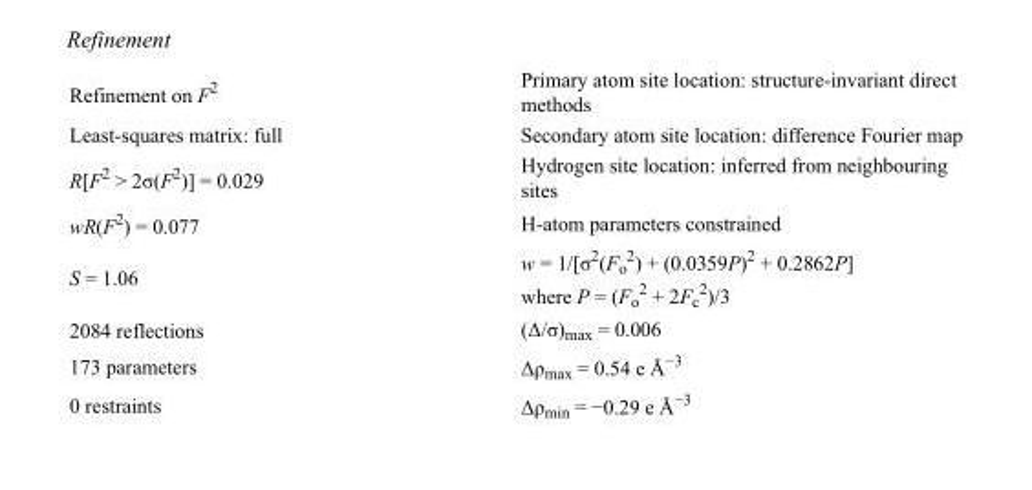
<table><tbody><tr><td>Refinement on F<sup>2</sup></td><td>Primary atom site location: structure-invariant direct methods</td></tr><tr><td>Least-squares matrix: full</td><td>Secondary atom site location: difference Fourier map</td></tr><tr><td>R[F<sup>2</sup> &gt; 2σ(F<sup>2</sup>)] = 0.029</td><td>Hydrogen site location: inferred from neighbouring sites</td></tr><tr><td>wR(F<sup>2</sup>) = 0.077</td><td>H-atom parameters constrained</td></tr><tr><td>S = 1.06</td><td>w = 1/[σ<sup>2</sup>(F<sub>o</sub> <sup>2</sup>) + (0.0359P)<sup>2</sup> + 0.2862P] where P = (F<sub>o</sub> <sup>2</sup> + 2F<sub>c</sub> <sup>2</sup>)/3</td></tr><tr><td>2084 reflections</td><td>(Δ/σ)<sub>max</sub> = 0.006</td></tr><tr><td>173 parameters</td><td>Δρ<sub>max</sub> = 0.54 e Å<sup>−3</sup></td></tr><tr><td>0 restraints</td><td>Δρ<sub>min</sub> = −0.29 e Å<sup>−3</sup></td></tr></tbody></table>